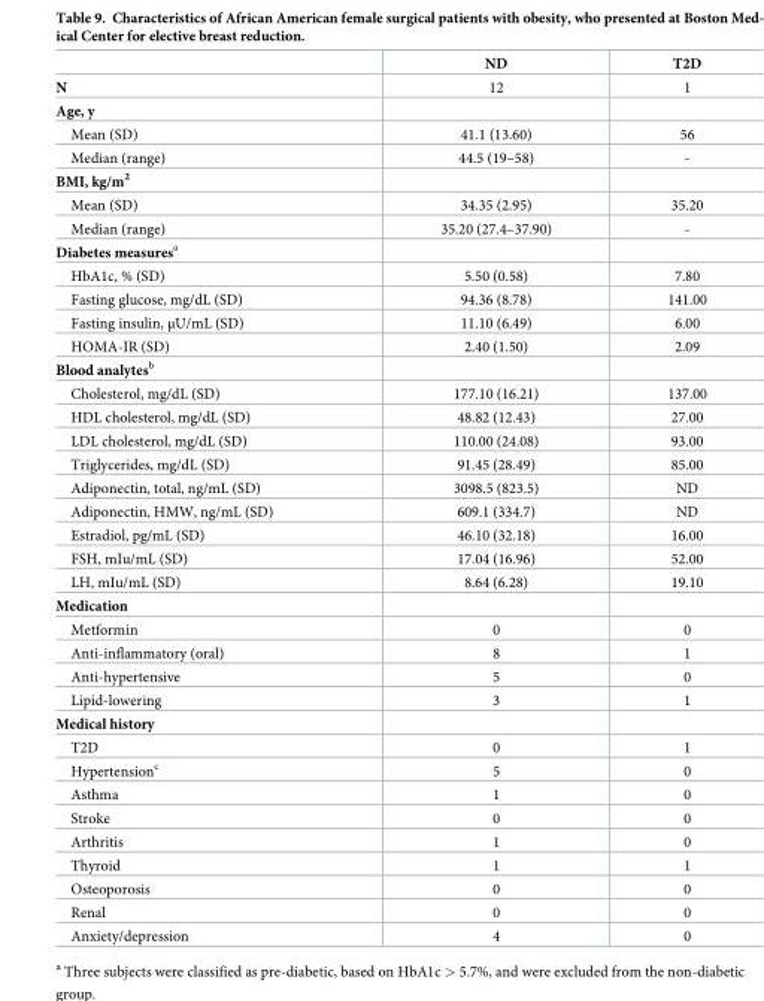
<table><thead><tr><td></td><td>ND</td><td>T2D</td></tr></thead><tbody><tr><td>N</td><td>12</td><td>1</td></tr><tr><td colspan="3">Age, y</td></tr><tr><td>Mean (SD)</td><td>41.1 (13.60)</td><td>56</td></tr><tr><td>Median (range)</td><td>44.5 (19–58)</td><td>-</td></tr><tr><td colspan="3">BMI, kg/m<sup>2</sup></td></tr><tr><td>Mean (SD)</td><td>34.35 (2.95)</td><td>35.20</td></tr><tr><td>Median (range)</td><td>35.20 (27.4–37.90)</td><td>-</td></tr><tr><td colspan="3">Diabetes measures<sup>a</sup></td></tr><tr><td>HbA1c, % (SD)</td><td>5.50 (0.58)</td><td>7.80</td></tr><tr><td>Fasting glucose, mg/dL (SD)</td><td>94.36 (8.78)</td><td>141.00</td></tr><tr><td>Fasting insulin, μU/mL (SD)</td><td>11.10 (6.49)</td><td>6.00</td></tr><tr><td>HOMA-IR (SD)</td><td>2.40 (1.50)</td><td>2.09</td></tr><tr><td colspan="3">Blood analytes<sup>b</sup></td></tr><tr><td>Cholesterol, mg/dL (SD)</td><td>177.10 (16.21)</td><td>137.00</td></tr><tr><td>HDL cholesterol, mg/dL (SD)</td><td>48.82 (12.43)</td><td>27.00</td></tr><tr><td>LDL cholesterol, mg/dL (SD)</td><td>110.00 (24.08)</td><td>93.00</td></tr><tr><td>Triglycerides, mg/dL (SD)</td><td>91.45 (28.49)</td><td>85.00</td></tr><tr><td>Adiponectin, total, ng/mL (SD)</td><td>3098.5 (823.5)</td><td>ND</td></tr><tr><td>Adiponectin, HMW, ng/mL (SD)</td><td>609.1 (334.7)</td><td>ND</td></tr><tr><td>Estradiol, pg/mL (SD)</td><td>46.10 (32.18)</td><td>16.00</td></tr><tr><td>FSH, mIu/mL (SD)</td><td>17.04 (16.96)</td><td>52.00</td></tr><tr><td>LH, mIu/mL (SD)</td><td>8.64 (6.28)</td><td>19.10</td></tr><tr><td colspan="3">Medication</td></tr><tr><td>Metformin</td><td>0</td><td>0</td></tr><tr><td>Anti-inflammatory (oral)</td><td>8</td><td>1</td></tr><tr><td>Anti-hypertensive</td><td>5</td><td>0</td></tr><tr><td>Lipid-lowering</td><td>3</td><td>1</td></tr><tr><td colspan="3">Medical history</td></tr><tr><td>T2D</td><td>0</td><td>1</td></tr><tr><td>Hypertension<sup>c</sup></td><td>5</td><td>0</td></tr><tr><td>Asthma</td><td>1</td><td>0</td></tr><tr><td>Stroke</td><td>0</td><td>0</td></tr><tr><td>Arthritis</td><td>1</td><td>0</td></tr><tr><td>Thyroid</td><td>1</td><td>1</td></tr><tr><td>Osteoporosis</td><td>0</td><td>0</td></tr><tr><td>Renal</td><td>0</td><td>0</td></tr><tr><td>Anxiety/depression</td><td>4</td><td>0</td></tr></tbody></table>